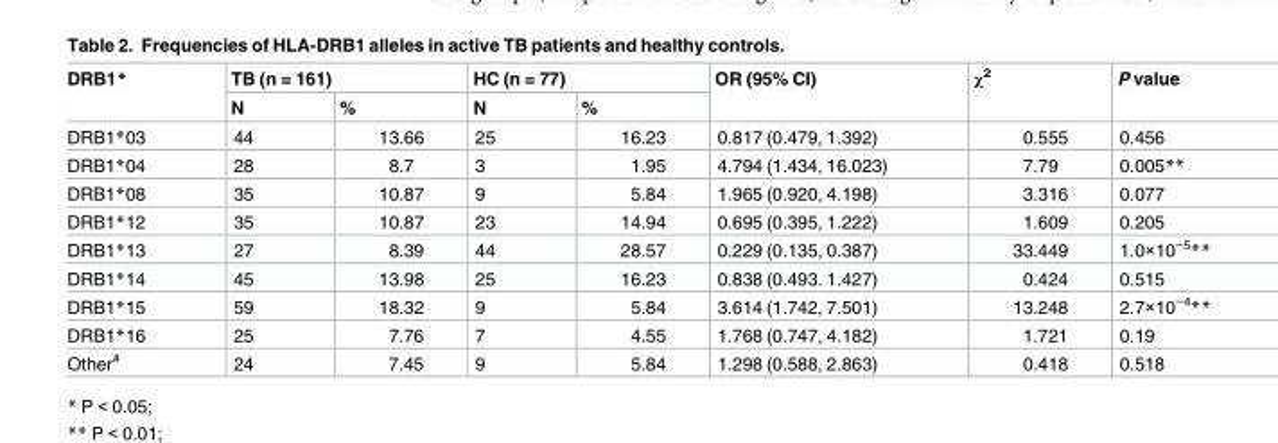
<table><thead><tr><td rowspan="2">DRB1*</td><td colspan="2">TB (n = 161)</td><td colspan="2">HC (n = 77)</td><td rowspan="2">OR (95% CI)</td><td rowspan="2">χ<sup>2</sup></td><td rowspan="2">P value</td></tr><tr><td>N</td><td>%</td><td>N</td><td>%</td></tr></thead><tbody><tr><td>DRB1*03</td><td>44</td><td>13.66</td><td>25</td><td>16.23</td><td>0.817 (0.479, 1.392)</td><td>0.555</td><td>0.456</td></tr><tr><td>DRB1*04</td><td>28</td><td>8.7</td><td>3</td><td>1.95</td><td>4.794 (1.434, 16.023)</td><td>7.79</td><td>0.005**</td></tr><tr><td>DRB1*08</td><td>35</td><td>10.87</td><td>9</td><td>5.84</td><td>1.965 (0.920, 4.198)</td><td>3.316</td><td>0.077</td></tr><tr><td>DRB1*12</td><td>35</td><td>10.87</td><td>23</td><td>14.94</td><td>0.695 (0.395, 1.222)</td><td>1.609</td><td>0.205</td></tr><tr><td>DRB1*13</td><td>27</td><td>8.39</td><td>44</td><td>28.57</td><td>0.229 (0.135, 0.387)</td><td>33.449</td><td>1.0×10<sup>−5</sup>**</td></tr><tr><td>DRB1*14</td><td>45</td><td>13.98</td><td>25</td><td>16.23</td><td>0.838 (0.493. 1.427)</td><td>0.424</td><td>0.515</td></tr><tr><td>DRB1*15</td><td>59</td><td>18.32</td><td>9</td><td>5.84</td><td>3.614 (1.742, 7.501)</td><td>13.248</td><td>2.7×10<sup>−4</sup>**</td></tr><tr><td>DRB1*16</td><td>25</td><td>7.76</td><td>7</td><td>4.55</td><td>1.768 (0.747, 4.182)</td><td>1.721</td><td>0.19</td></tr><tr><td>Other<sup>#</sup></td><td>24</td><td>7.45</td><td>9</td><td>5.84</td><td>1.298 (0.588, 2.863)</td><td>0.418</td><td>0.518</td></tr></tbody></table>